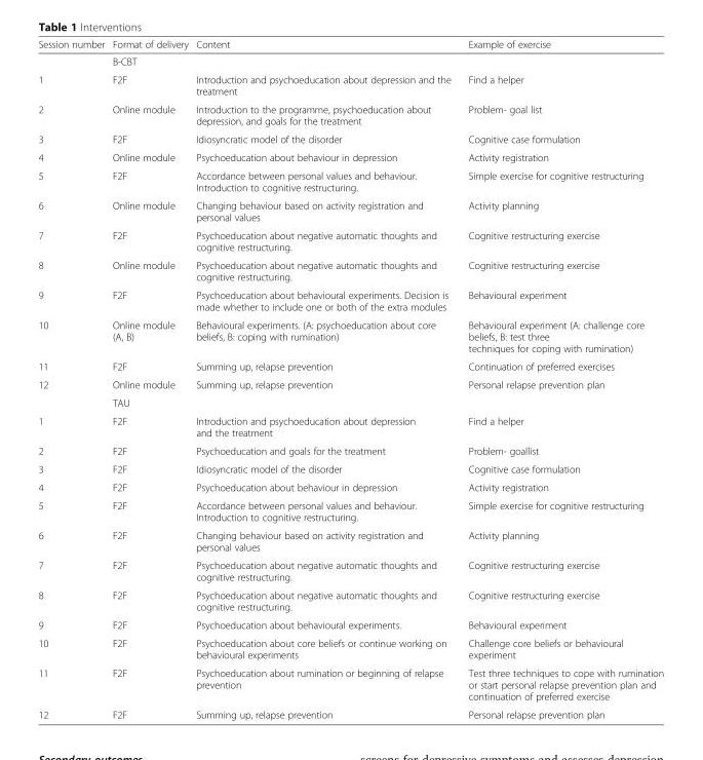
<table><thead><tr><td>Session number</td><td>Format of delivery</td><td>Content</td><td>Example of exercise</td></tr></thead><tbody><tr><td></td><td colspan="3">B-CBT</td></tr><tr><td>1</td><td>F2F</td><td>Introduction and psychoeducation about depression and the treatment</td><td>Find a helper</td></tr><tr><td>2</td><td>Online module</td><td>Introduction to the programme, psychoeducation about depression, and goals for the treatment</td><td>Problem- goal list</td></tr><tr><td>3</td><td>F2F</td><td>Idiosyncratic model of the disorder</td><td>Cognitive case formulation</td></tr><tr><td>4</td><td>Online module</td><td>Psychoeducation about behaviour in depression</td><td>Activity registration</td></tr><tr><td>5</td><td>F2F</td><td>Accordance between personal values and behaviour. Introduction to cognitive restructuring.</td><td>Simple exercise for cognitive restructuring</td></tr><tr><td>6</td><td>Online module</td><td>Changing behaviour based on activity registration and personal values</td><td>Activity planning</td></tr><tr><td>7</td><td>F2F</td><td>Psychoeducation about negative automatic thoughts and cognitive restructuring.</td><td>Cognitive restructuring exercise</td></tr><tr><td>8</td><td>Online module</td><td>Psychoeducation about negative automatic thoughts and cognitive restructuring.</td><td>Cognitive restructuring exercise</td></tr><tr><td>9</td><td>F2F</td><td>Psychoeducation about behavioural experiments. Decision is made whether to include one or both of the extra modules</td><td>Behavioural experiment</td></tr><tr><td>10</td><td>Online module (A, B)</td><td>Behavioural experiments. (A: psychoeducation about core beliefs, B: coping with rumination)</td><td>Behavioural experiment (A: challenge core beliefs, B: test three techniques for coping with rumination)</td></tr><tr><td>11</td><td>F2F</td><td>Summing up, relapse prevention</td><td>Continuation of preferred exercises</td></tr><tr><td rowspan="2">12</td><td>Online module</td><td>Summing up, relapse prevention</td><td>Personal relapse prevention plan</td></tr><tr><td colspan="3">TAU</td></tr><tr><td>1</td><td>F2F</td><td>Introduction and psychoeducation about depression and the treatment</td><td>Find a helper</td></tr><tr><td>2</td><td>F2F</td><td>Psychoeducation and goals for the treatment</td><td>Problem- goallist</td></tr><tr><td>3</td><td>F2F</td><td>Idiosyncratic model of the disorder</td><td>Cognitive case formulation</td></tr><tr><td>4</td><td>F2F</td><td>Psychoeducation about behaviour in depression</td><td>Activity registration</td></tr><tr><td>5</td><td>F2F</td><td>Accordance between personal values and behaviour. Introduction to cognitive restructuring.</td><td>Simple exercise for cognitive restructuring</td></tr><tr><td>6</td><td>F2F</td><td>Changing behaviour based on activity registration and personal values</td><td>Activity planning</td></tr><tr><td>7</td><td>F2F</td><td>Psychoeducation about negative automatic thoughts and cognitive restructuring.</td><td>Cognitive restructuring exercise</td></tr><tr><td>8</td><td>F2F</td><td>Psychoeducation about negative automatic thoughts and cognitive restructuring.</td><td>Cognitive restructuring exercise</td></tr><tr><td>9</td><td>F2F</td><td>Psychoeducation about behavioural experiments.</td><td>Behavioural experiment</td></tr><tr><td>10</td><td>F2F</td><td>Psychoeducation about core beliefs or continue working on behavioural experiments</td><td>Challenge core beliefs or behavioural experiment</td></tr><tr><td>11</td><td>F2F</td><td>Psychoeducation about rumination or beginning of relapse prevention</td><td>Test three techniques to cope with rumination or start personal relapse prevention plan and continuation of preferred exercise</td></tr><tr><td>12</td><td>F2F</td><td>Summing up, relapse prevention</td><td>Personal relapse prevention plan</td></tr></tbody></table>